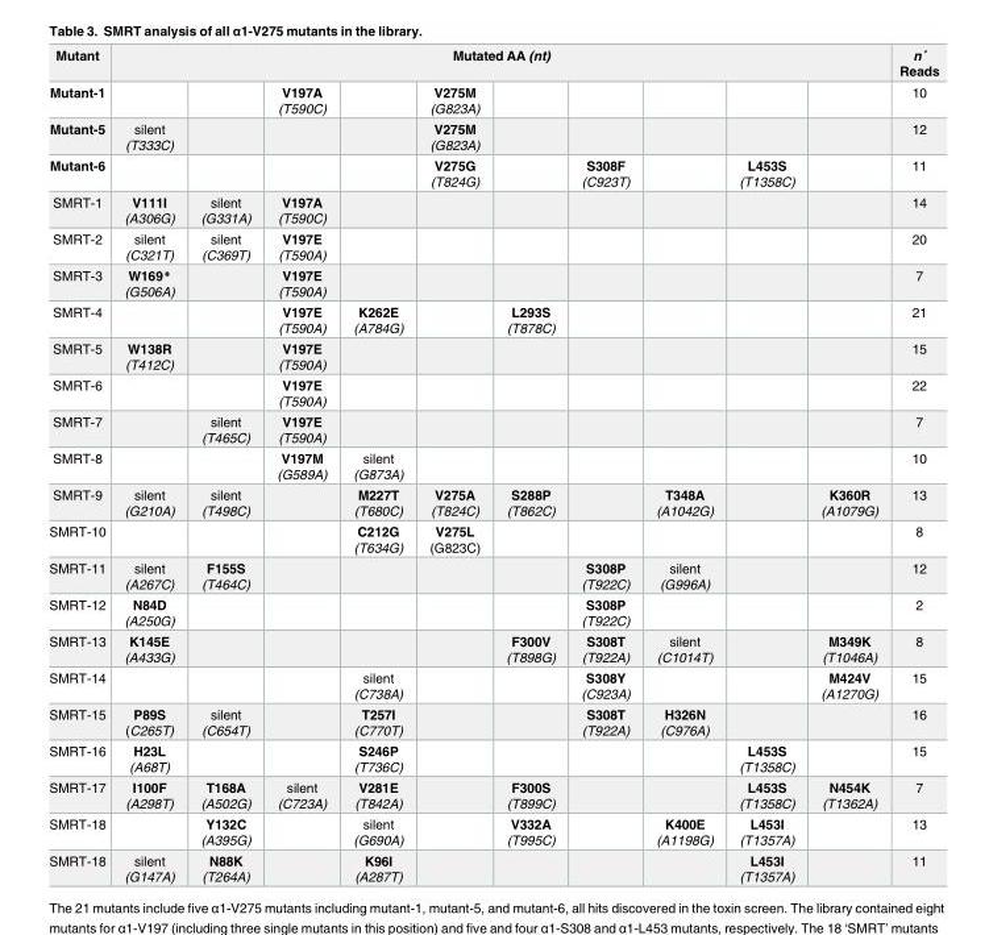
<table><thead><tr><td rowspan="2">Mutant Mutant-1</td><td colspan="10">Mutated AA (nt)</td><td rowspan="2">n˚ Reads 10</td></tr><tr><td></td><td></td><td>V197A (T590C)</td><td></td><td>V275M (G823A)</td><td></td><td></td><td></td><td></td><td></td></tr></thead><tbody><tr><td>Mutant-5</td><td>silent (T333C)</td><td></td><td></td><td></td><td>V275M (G823A)</td><td></td><td></td><td></td><td></td><td></td><td>12</td></tr><tr><td>Mutant-6</td><td></td><td></td><td></td><td></td><td>V275G (T824G)</td><td></td><td>S308F (C923T)</td><td></td><td>L453S (T1358C)</td><td></td><td>11</td></tr><tr><td>SMRT-1</td><td>V111I (A306G)</td><td>silent (G331A)</td><td>V197A (T590C)</td><td></td><td></td><td></td><td></td><td></td><td></td><td></td><td>14</td></tr><tr><td>SMRT-2</td><td>silent (C321T)</td><td>silent (C369T)</td><td>V197E (T590A)</td><td></td><td></td><td></td><td></td><td></td><td></td><td></td><td>20</td></tr><tr><td>SMRT-3</td><td>W169* (G506A)</td><td></td><td>V197E (T590A)</td><td></td><td></td><td></td><td></td><td></td><td></td><td></td><td>7</td></tr><tr><td>SMRT-4</td><td></td><td></td><td>V197E (T590A)</td><td>K262E (A784G)</td><td></td><td>L293S (T878C)</td><td></td><td></td><td></td><td></td><td>21</td></tr><tr><td>SMRT-5</td><td>W138R (T412C)</td><td></td><td>V197E (T590A)</td><td></td><td></td><td></td><td></td><td></td><td></td><td></td><td>15</td></tr><tr><td>SMRT-6</td><td></td><td></td><td>V197E (T590A)</td><td></td><td></td><td></td><td></td><td></td><td></td><td></td><td>22</td></tr><tr><td>SMRT-7</td><td></td><td>silent (T465C)</td><td>V197E (T590A)</td><td></td><td></td><td></td><td></td><td></td><td></td><td></td><td>7</td></tr><tr><td>SMRT-8</td><td></td><td></td><td>V197M (G589A)</td><td>silent (G873A)</td><td></td><td></td><td></td><td></td><td></td><td></td><td>10</td></tr><tr><td>SMRT-9</td><td>silent (G210A)</td><td>silent (T498C)</td><td></td><td>M227T (T680C)</td><td>V275A (T824C)</td><td>S288P (T862C)</td><td></td><td>T348A (A1042G)</td><td></td><td>K360R (A1079G)</td><td>13</td></tr><tr><td>SMRT-10</td><td></td><td></td><td></td><td>C212G (T634G)</td><td>V275L (G823C)</td><td></td><td></td><td></td><td></td><td></td><td>8</td></tr><tr><td>SMRT-11</td><td>silent (A267C)</td><td>F155S (T464C)</td><td></td><td></td><td></td><td></td><td>S308P (T922C)</td><td>silent (G996A)</td><td></td><td></td><td>12</td></tr><tr><td>SMRT-12</td><td>N84D (A250G)</td><td></td><td></td><td></td><td></td><td></td><td>S308P (T922C)</td><td></td><td></td><td></td><td>2</td></tr><tr><td>SMRT-13</td><td>K145E (A433G)</td><td></td><td></td><td></td><td></td><td>F300V (T898G)</td><td>S308T (T922A)</td><td>silent (C1014T)</td><td></td><td>M349K (T1046A)</td><td>8</td></tr><tr><td>SMRT-14</td><td></td><td></td><td></td><td>silent (C738A)</td><td></td><td></td><td>S308Y (C923A)</td><td></td><td></td><td>M424V (A1270G)</td><td>15</td></tr><tr><td>SMRT-15</td><td>P89S (C265T)</td><td>silent (C654T)</td><td></td><td>T257I (C770T)</td><td></td><td></td><td>S308T (T922A)</td><td>H326N (C976A)</td><td></td><td></td><td>16</td></tr><tr><td>SMRT-16</td><td>H23L (A68T)</td><td></td><td></td><td>S246P (T736C)</td><td></td><td></td><td></td><td></td><td>L453S (T1358C)</td><td></td><td>15</td></tr><tr><td>SMRT-17</td><td>I100F (A298T)</td><td>T168A (A502G)</td><td>silent (C723A)</td><td>V281E (T842A)</td><td></td><td>F300S (T899C)</td><td></td><td></td><td>L453S (T1358C)</td><td>N454K (T1362A)</td><td>7</td></tr><tr><td>SMRT-18</td><td></td><td>Y132C (A395G)</td><td></td><td>silent (G690A)</td><td></td><td>V332A (T995C)</td><td></td><td>K400E (A1198G)</td><td>L453I (T1357A)</td><td></td><td>13</td></tr><tr><td>SMRT-18</td><td>silent (G147A)</td><td>N88K (T264A)</td><td></td><td>K96I (A287T)</td><td></td><td></td><td></td><td></td><td>L453I (T1357A)</td><td></td><td>11</td></tr></tbody></table>